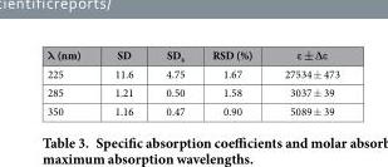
<table><thead><tr><td>λ (nm)</td><td>SD</td><td>SDx</td><td>RSD (%)</td><td>ε ± ∆ε</td></tr></thead><tbody><tr><td>225</td><td>11.6</td><td>4.75</td><td>1.67</td><td>27534 ± 473</td></tr><tr><td>285</td><td>1.21</td><td>0.50</td><td>1.58</td><td>3037 ± 39</td></tr><tr><td>350</td><td>1.16</td><td>0.47</td><td>0.90</td><td>5089 ± 39</td></tr></tbody></table>